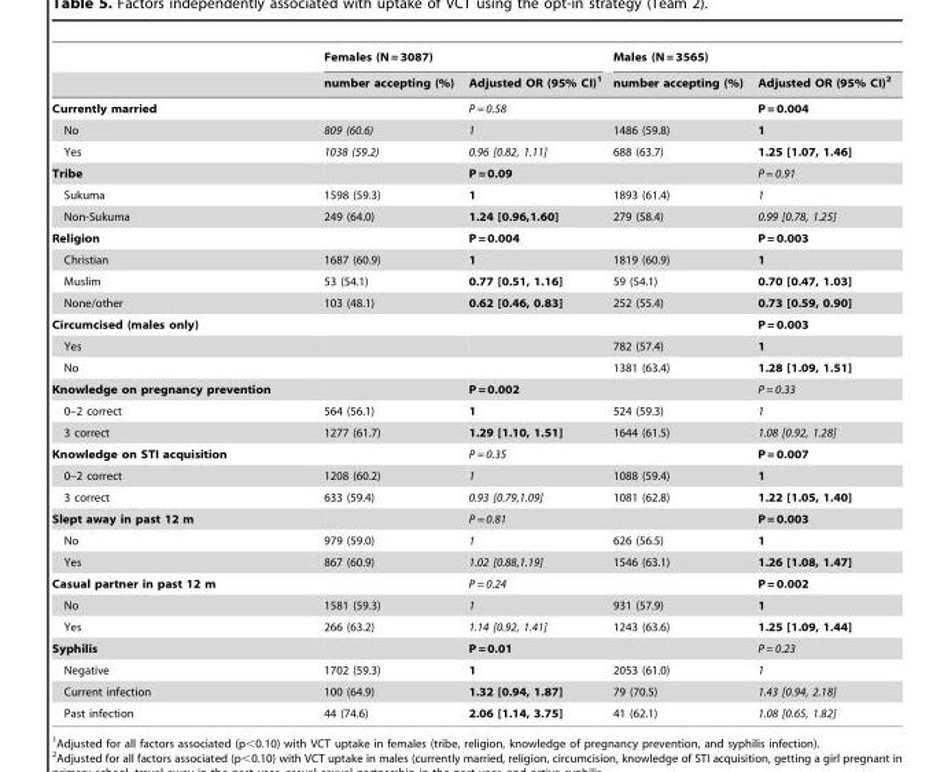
<table><thead><tr><td rowspan="2"></td><td colspan="2">Females (N = 3087)</td><td colspan="2">Males (N = 3565)</td></tr><tr><td>number accepting (%)</td><td>Adjusted OR (95% CI)<sup>1</sup></td><td>number accepting (%)</td><td>Adjusted OR (95% CI)<sup>2</sup></td></tr></thead><tbody><tr><td>Currently married</td><td></td><td>P = 0.58</td><td></td><td>P = 0.004</td></tr><tr><td>No</td><td>809 (60.6)</td><td>1</td><td>1486 (59.8)</td><td>1</td></tr><tr><td>Yes</td><td>1038 (59.2)</td><td>0.96 [0.82, 1.11]</td><td>688 (63.7)</td><td>1.25 [1.07, 1.46]</td></tr><tr><td>Tribe</td><td></td><td>P = 0.09</td><td></td><td>P = 0.91</td></tr><tr><td>Sukuma</td><td>1598 (59.3)</td><td>1</td><td>1893 (61.4)</td><td>1</td></tr><tr><td>Non-Sukuma</td><td>249 (64.0)</td><td>1.24 [0.96,1.60]</td><td>279 (58.4)</td><td>0.99 [0.78, 1.25]</td></tr><tr><td>Religion</td><td></td><td>P = 0.004</td><td></td><td>P = 0.003</td></tr><tr><td>Christian</td><td>1687 (60.9)</td><td>1</td><td>1819 (60.9)</td><td>1</td></tr><tr><td>Muslim</td><td>53 (54.1)</td><td>0.77 [0.51, 1.16]</td><td>59 (54.1)</td><td>0.70 [0.47, 1.03]</td></tr><tr><td>None/other</td><td>103 (48.1)</td><td>0.62 [0.46, 0.83]</td><td>252 (55.4)</td><td>0.73 [0.59, 0.90]</td></tr><tr><td>Circumcised (males only)</td><td></td><td></td><td></td><td>P = 0.003</td></tr><tr><td>Yes</td><td></td><td></td><td>782 (57.4)</td><td>1</td></tr><tr><td>No</td><td></td><td></td><td>1381 (63.4)</td><td>1.28 [1.09, 1.51]</td></tr><tr><td>Knowledge on pregnancy prevention</td><td></td><td>P = 0.002</td><td></td><td>P = 0.33</td></tr><tr><td>0–2 correct</td><td>564 (56.1)</td><td>1</td><td>524 (59.3)</td><td>1</td></tr><tr><td>3 correct</td><td>1277 (61.7)</td><td>1.29 [1.10, 1.51]</td><td>1644 (61.5)</td><td>1.08 [0.92, 1.28]</td></tr><tr><td>Knowledge on STI acquisition</td><td></td><td>P = 0.35</td><td></td><td>P = 0.007</td></tr><tr><td>0–2 correct</td><td>1208 (60.2)</td><td>1</td><td>1088 (59.4)</td><td>1</td></tr><tr><td>3 correct</td><td>633 (59.4)</td><td>0.93 [0.79,1.09]</td><td>1081 (62.8)</td><td>1.22 [1.05, 1.40]</td></tr><tr><td>Slept away in past 12 m</td><td></td><td>P = 0.81</td><td></td><td>P = 0.003</td></tr><tr><td>No</td><td>979 (59.0)</td><td>1</td><td>626 (56.5)</td><td>1</td></tr><tr><td>Yes</td><td>867 (60.9)</td><td>1.02 [0.88,1.19]</td><td>1546 (63.1)</td><td>1.26 [1.08, 1.47]</td></tr><tr><td>Casual partner in past 12 m</td><td></td><td>P = 0.24</td><td></td><td>P = 0.002</td></tr><tr><td>No</td><td>1581 (59.3)</td><td>1</td><td>931 (57.9)</td><td>1</td></tr><tr><td>Yes</td><td>266 (63.2)</td><td>1.14 [0.92, 1.41]</td><td>1243 (63.6)</td><td>1.25 [1.09, 1.44]</td></tr><tr><td>Syphilis</td><td></td><td>P = 0.01</td><td></td><td>P = 0.23</td></tr><tr><td>Negative</td><td>1702 (59.3)</td><td>1</td><td>2053 (61.0)</td><td>1</td></tr><tr><td>Current infection</td><td>100 (64.9)</td><td>1.32 [0.94, 1.87]</td><td>79 (70.5)</td><td>1.43 [0.94, 2.18]</td></tr><tr><td>Past infection</td><td>44 (74.6)</td><td>2.06 [1.14, 3.75]</td><td>41 (62.1)</td><td>1.08 [0.65, 1.82]</td></tr></tbody></table>